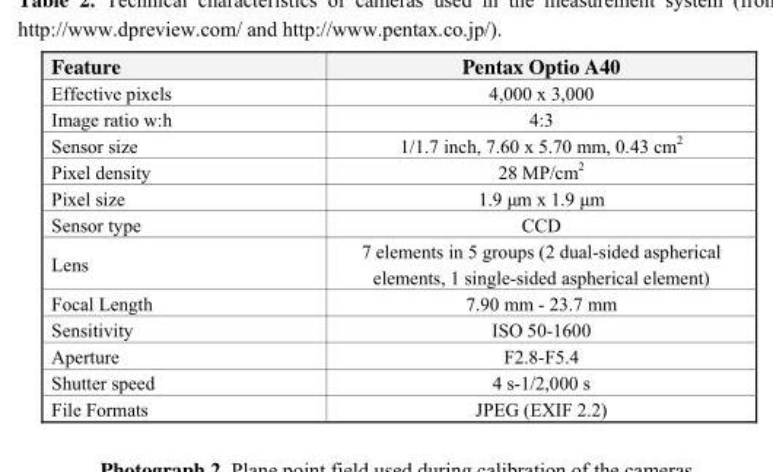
<table><thead><tr><td>Feature</td><td>Pentax Optio A40</td></tr></thead><tbody><tr><td>Effective pixels</td><td>4,000 x 3,000</td></tr><tr><td>Image ratio w:h</td><td>4:3</td></tr><tr><td>Sensor size</td><td>1/1.7 inch, 7.60 x 5.70 mm, 0.43 cm2</td></tr><tr><td>Pixel density</td><td>28 MP/cm<sup>2</sup></td></tr><tr><td>Pixel size</td><td>1.9 μm x 1.9 μm</td></tr><tr><td>Sensor type</td><td>CCD</td></tr><tr><td>Lens</td><td>7 elements in 5 groups (2 dual-sided aspherical elements, 1 single-sided aspherical element)</td></tr><tr><td>Focal Length</td><td>7.90 mm - 23.7 mm</td></tr><tr><td>Sensitivity</td><td>ISO 50-1600</td></tr><tr><td>Aperture</td><td>F2.8-F5.4</td></tr><tr><td>Shutter speed</td><td>4 s-1/2,000 s</td></tr><tr><td>File Formats</td><td>JPEG (EXIF 2.2)</td></tr></tbody></table>